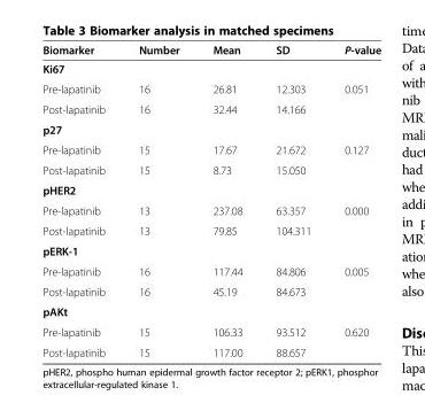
<table><thead><tr><td>Biomarker</td><td>Number</td><td>Mean</td><td>SD</td><td>P-value</td></tr></thead><tbody><tr><td colspan="5">Ki67</td></tr><tr><td>Pre-lapatinib</td><td>16</td><td>26.81</td><td>12.303</td><td rowspan="2">0.051</td></tr><tr><td>Post-lapatinib</td><td>16</td><td>32.44</td><td>14.166</td></tr><tr><td colspan="5">p27</td></tr><tr><td>Pre-lapatinib</td><td>15</td><td>17.67</td><td>21.672</td><td rowspan="2">0.127</td></tr><tr><td>Post-lapatinib</td><td>15</td><td>8.73</td><td>15.050</td></tr><tr><td colspan="5">pHER2</td></tr><tr><td>Pre-lapatinib</td><td>13</td><td>237.08</td><td>63.357</td><td rowspan="2">0.000</td></tr><tr><td>Post-lapatinib</td><td>13</td><td>79.85</td><td>104.311</td></tr><tr><td colspan="5">pERK-1</td></tr><tr><td>Pre-lapatinib</td><td>16</td><td>117.44</td><td>84.806</td><td rowspan="2">0.005</td></tr><tr><td>Post-lapatinib</td><td>16</td><td>45.19</td><td>84.673</td></tr><tr><td colspan="5">pAKt</td></tr><tr><td>Pre-lapatinib</td><td>15</td><td>106.33</td><td>93.512</td><td>0.620</td></tr><tr><td>Post-lapatinib</td><td>15</td><td>117.00</td><td>88.657</td><td></td></tr></tbody></table>